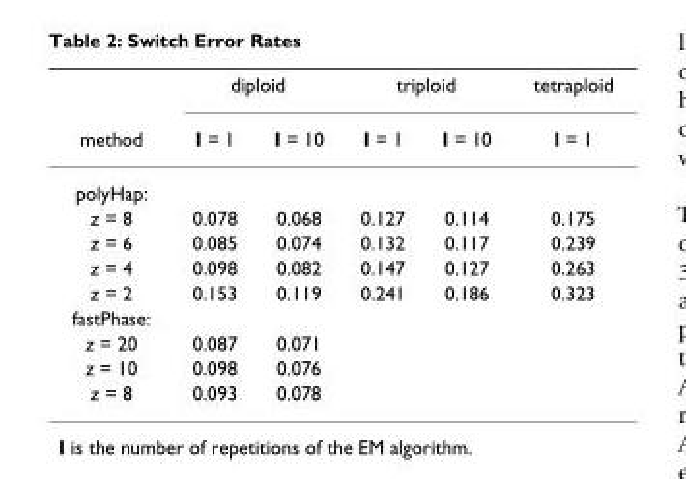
<table><thead><tr><td rowspan="2">method</td><td colspan="2">diploid</td><td colspan="2">triploid</td><td rowspan="2">tetraploid I = 1</td></tr><tr><td>I = 1</td><td>I = 10</td><td>I = 1</td><td>I = 10</td></tr></thead><tbody><tr><td colspan="6">polyHap:</td></tr><tr><td>z = 8</td><td>0.078</td><td>0.068</td><td>0.127</td><td>0.114</td><td>0.175</td></tr><tr><td>z = 6</td><td>0.085</td><td>0.074</td><td>0.132</td><td>0.117</td><td>0.239</td></tr><tr><td>z = 4</td><td>0.098</td><td>0.082</td><td>0.147</td><td>0.127</td><td>0.263</td></tr><tr><td>z = 2</td><td>0.153</td><td>0.119</td><td>0.241</td><td>0.186</td><td>0.323</td></tr><tr><td colspan="6">fastPhase:</td></tr><tr><td>z = 20</td><td>0.087</td><td>0.071</td><td></td><td></td><td></td></tr><tr><td>z = 10</td><td>0.098</td><td>0.076</td><td></td><td></td><td></td></tr><tr><td>z = 8</td><td>0.093</td><td>0.078</td><td></td><td></td><td></td></tr></tbody></table>